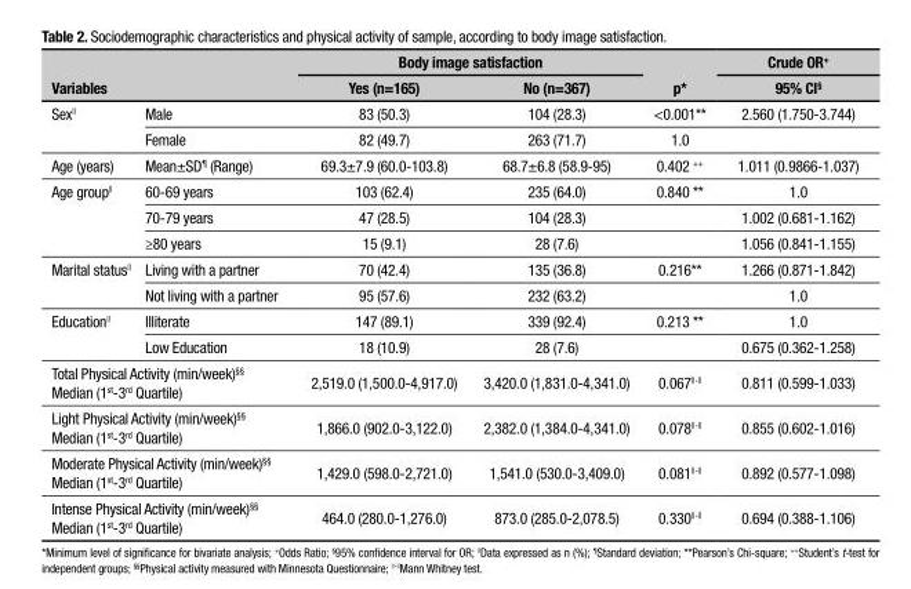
<table><thead><tr><td rowspan="2">Variables</td><td rowspan="2"></td><td colspan="2">Body image satisfaction</td><td rowspan="2">p*</td><td rowspan="2">Crude OR+ 95% CI§</td></tr><tr><td>Yes (n=165)</td><td>No (n=367)</td></tr></thead><tbody><tr><td rowspan="2">Sex||</td><td>Male</td><td>83 (50.3)</td><td>104 (28.3)</td><td>&lt;0.001**</td><td>2.560 (1.750-3.744)</td></tr><tr><td>Female</td><td>82 (49.7)</td><td>263 (71.7)</td><td>1.0</td><td></td></tr><tr><td>Age (years)</td><td>Mean±SD¶ (Range)</td><td>69.3±7.9 (60.0-103.8)</td><td>68.7±6.8 (58.9-95)</td><td>0.402 ++</td><td>1.011 (0.9866-1.037)</td></tr><tr><td rowspan="3">Age group||</td><td>60-69 years</td><td>103 (62.4)</td><td>235 (64.0)</td><td>0.840 **</td><td>1.0</td></tr><tr><td>70-79 years</td><td>47 (28.5)</td><td>104 (28.3)</td><td></td><td>1.002 (0.681-1.162)</td></tr><tr><td>≥80 years</td><td>15 (9.1)</td><td>28 (7.6)</td><td></td><td>1.056 (0.841-1.155)</td></tr><tr><td rowspan="2">Marital status||</td><td>Living with a partner</td><td>70 (42.4)</td><td>135 (36.8)</td><td>0.216**</td><td>1.266 (0.871-1.842)</td></tr><tr><td>Not living with a partner</td><td>95 (57.6)</td><td>232 (63.2)</td><td></td><td>1.0</td></tr><tr><td rowspan="2">Education||</td><td>Illiterate</td><td>147 (89.1)</td><td>339 (92.4)</td><td>0.213 **</td><td>1.0</td></tr><tr><td>Low Education</td><td>18 (10.9)</td><td>28 (7.6)</td><td></td><td>0.675 (0.362-1.258)</td></tr><tr><td colspan="2">Total Physical Activity (min/week)§§ Median (1<sup>st</sup>-3<sup>rd</sup> Quartile)</td><td>2,519.0 (1,500.0-4,917.0)</td><td>3,420.0 (1,831.0-4,341.0)</td><td>0.067||-||</td><td>0.811 (0.599-1.033)</td></tr><tr><td colspan="2">Light Physical Activity (min/week)§§ Median (1<sup>st</sup>-3<sup>rd</sup> Quartile)</td><td>1,866.0 (902.0-3,122.0)</td><td>2,382.0 (1,384.0-4,341.0)</td><td>0.078||-||</td><td>0.855 (0.602-1.016)</td></tr><tr><td colspan="2">Moderate Physical Activity (min/week)§§ Median (1<sup>st</sup>-3<sup>rd</sup> Quartile)</td><td>1,429.0 (598.0-2,721.0)</td><td>1,541.0 (530.0-3,409.0)</td><td>0.081||-||</td><td>0.892 (0.577-1.098)</td></tr><tr><td colspan="2">Intense Physical Activity (min/week)§§ Median (1<sup>st</sup>-3<sup>rd</sup> Quartile)</td><td>464.0 (280.0-1,276.0)</td><td>873.0 (285.0-2,078.5)</td><td>0.330||-||</td><td>0.694 (0.388-1.106)</td></tr></tbody></table>